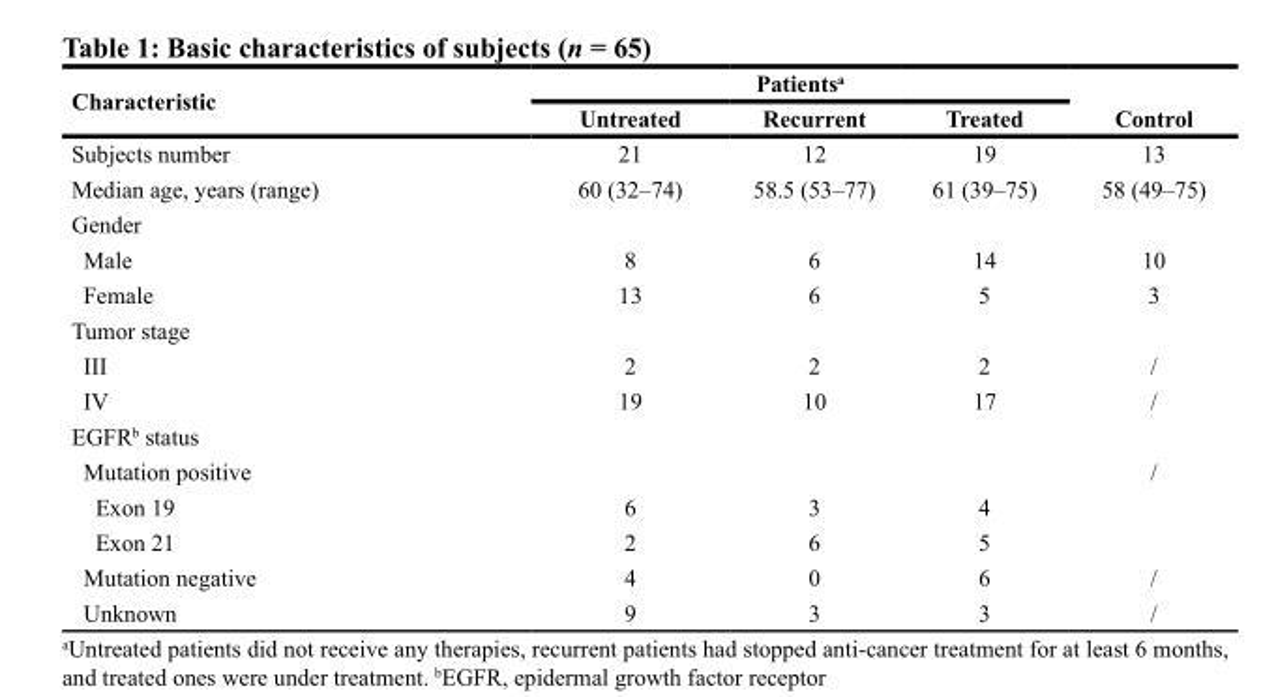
<table><thead><tr><td rowspan="2">Characteristic</td><td colspan="3">Patients<sup>a</sup></td><td rowspan="2">Control</td></tr><tr><td>Untreated</td><td>Recurrent</td><td>Treated</td></tr></thead><tbody><tr><td>Subjects number</td><td>21</td><td>12</td><td>19</td><td>13</td></tr><tr><td>Median age, years (range)</td><td>60 (32–74)</td><td>58.5 (53–77)</td><td>61 (39–75)</td><td>58 (49–75)</td></tr><tr><td colspan="5">Gender</td></tr><tr><td>Male</td><td>8</td><td>6</td><td>14</td><td>10</td></tr><tr><td>Female</td><td>13</td><td>6</td><td>5</td><td>3</td></tr><tr><td colspan="5">Tumor stage</td></tr><tr><td>III</td><td>2</td><td>2</td><td>2</td><td>/</td></tr><tr><td>IV</td><td>19</td><td>10</td><td>17</td><td>/</td></tr><tr><td colspan="5">EGFR<sup>b</sup> status</td></tr><tr><td>Mutation positive</td><td></td><td></td><td></td><td>/</td></tr><tr><td>Exon 19</td><td>6</td><td>3</td><td>4</td><td></td></tr><tr><td>Exon 21</td><td>2</td><td>6</td><td>5</td><td></td></tr><tr><td>Mutation negative</td><td>4</td><td>0</td><td>6</td><td>/</td></tr><tr><td>Unknown</td><td>9</td><td>3</td><td>3</td><td>/</td></tr></tbody></table>